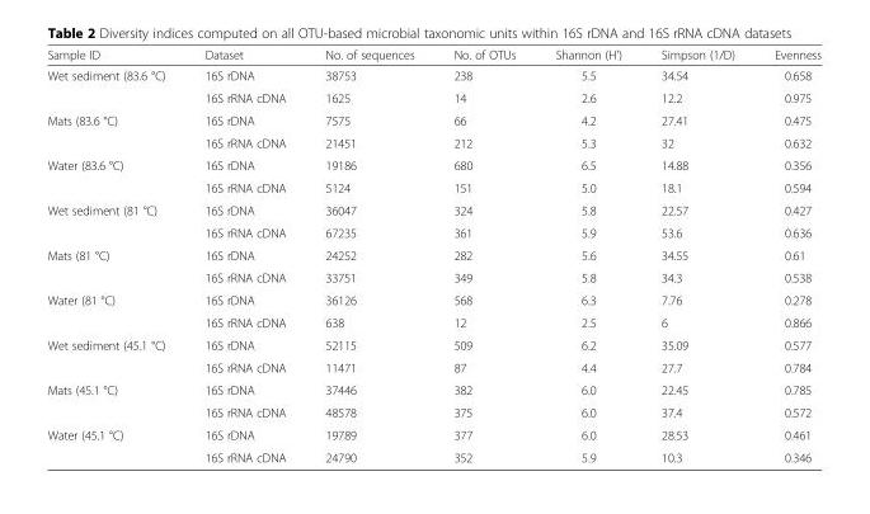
<table><thead><tr><td>Sample ID</td><td>Dataset</td><td>No. of sequences</td><td>No. of OTUs</td><td>Shannon (H’)</td><td>Simpson (1/D)</td><td>Evenness</td></tr></thead><tbody><tr><td rowspan="2">Wet sediment (83.6 °C)</td><td>16S rDNA</td><td>38753</td><td>238</td><td>5.5</td><td>34.54</td><td>0.658</td></tr><tr><td>16S rRNA cDNA</td><td>1625</td><td>14</td><td>2.6</td><td>12.2</td><td>0.975</td></tr><tr><td rowspan="2">Mats (83.6 °C)</td><td>16S rDNA</td><td>7575</td><td>66</td><td>4.2</td><td>27.41</td><td>0.475</td></tr><tr><td>16S rRNA cDNA</td><td>21451</td><td>212</td><td>5.3</td><td>32</td><td>0.632</td></tr><tr><td rowspan="2">Water (83.6 °C)</td><td>16S rDNA</td><td>19186</td><td>680</td><td>6.5</td><td>14.88</td><td>0.356</td></tr><tr><td>16S rRNA cDNA</td><td>5124</td><td>151</td><td>5.0</td><td>18.1</td><td>0.594</td></tr><tr><td rowspan="2">Wet sediment (81 °C)</td><td>16S rDNA</td><td>36047</td><td>324</td><td>5.8</td><td>22.57</td><td>0.427</td></tr><tr><td>16S rRNA cDNA</td><td>67235</td><td>361</td><td>5.9</td><td>53.6</td><td>0.636</td></tr><tr><td rowspan="2">Mats (81 °C)</td><td>16S rDNA</td><td>24252</td><td>282</td><td>5.6</td><td>34.55</td><td>0.61</td></tr><tr><td>16S rRNA cDNA</td><td>33751</td><td>349</td><td>5.8</td><td>34.3</td><td>0.538</td></tr><tr><td rowspan="2">Water (81 °C)</td><td>16S rDNA</td><td>36126</td><td>568</td><td>6.3</td><td>7.76</td><td>0.278</td></tr><tr><td>16S rRNA cDNA</td><td>638</td><td>12</td><td>2.5</td><td>6</td><td>0.866</td></tr><tr><td rowspan="2">Wet sediment (45.1 °C)</td><td>16S rDNA</td><td>52115</td><td>509</td><td>6.2</td><td>35.09</td><td>0.577</td></tr><tr><td>16S rRNA cDNA</td><td>11471</td><td>87</td><td>4.4</td><td>27.7</td><td>0.784</td></tr><tr><td rowspan="2">Mats (45.1 °C)</td><td>16S rDNA</td><td>37446</td><td>382</td><td>6.0</td><td>22.45</td><td>0.785</td></tr><tr><td>16S rRNA cDNA</td><td>48578</td><td>375</td><td>6.0</td><td>37.4</td><td>0.572</td></tr><tr><td rowspan="2">Water (45.1 °C)</td><td>16S rDNA</td><td>19789</td><td>377</td><td>6.0</td><td>28.53</td><td>0.461</td></tr><tr><td>16S rRNA cDNA</td><td>24790</td><td>352</td><td>5.9</td><td>10.3</td><td>0.346</td></tr></tbody></table>